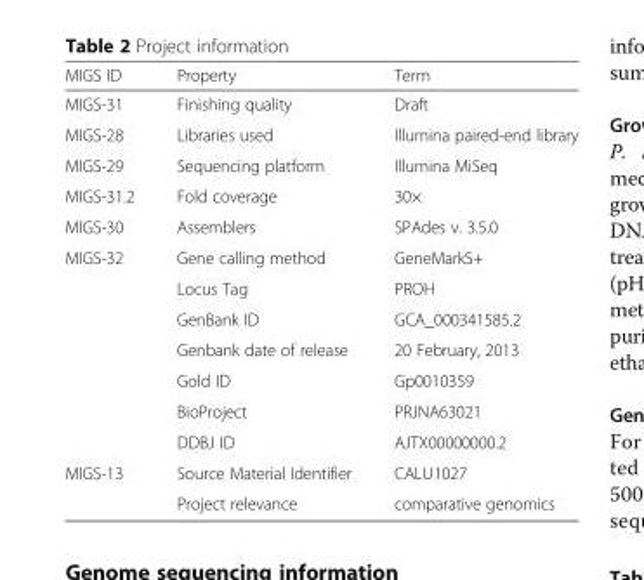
<table><thead><tr><td>MIGS ID</td><td>Property</td><td>Term</td></tr></thead><tbody><tr><td>MIGS-31</td><td>Finishing quality</td><td>Draft</td></tr><tr><td>MIGS-28</td><td>Libraries used</td><td>Illumina paired-end library</td></tr><tr><td>MIGS-29</td><td>Sequencing platform</td><td>Illumina MiSeq</td></tr><tr><td>MIGS-31.2</td><td>Fold coverage</td><td>30×</td></tr><tr><td>MIGS-30</td><td>Assemblers</td><td>SPAdes v. 3.5.0</td></tr><tr><td rowspan="7">MIGS-32</td><td>Gene calling method</td><td>GeneMarkS+</td></tr><tr><td>Locus Tag</td><td>PROH</td></tr><tr><td>GenBank ID</td><td>GCA_000341585.2</td></tr><tr><td>Genbank date of release</td><td>20 February, 2013</td></tr><tr><td>Gold ID</td><td>Gp0010359</td></tr><tr><td>BioProject</td><td>PRJNA63021</td></tr><tr><td>DDBJ ID</td><td>AJTX00000000.2</td></tr><tr><td rowspan="2">MIGS-13</td><td>Source Material Identifier</td><td>CALU1027</td></tr><tr><td>Project relevance</td><td>comparative genomics</td></tr></tbody></table>